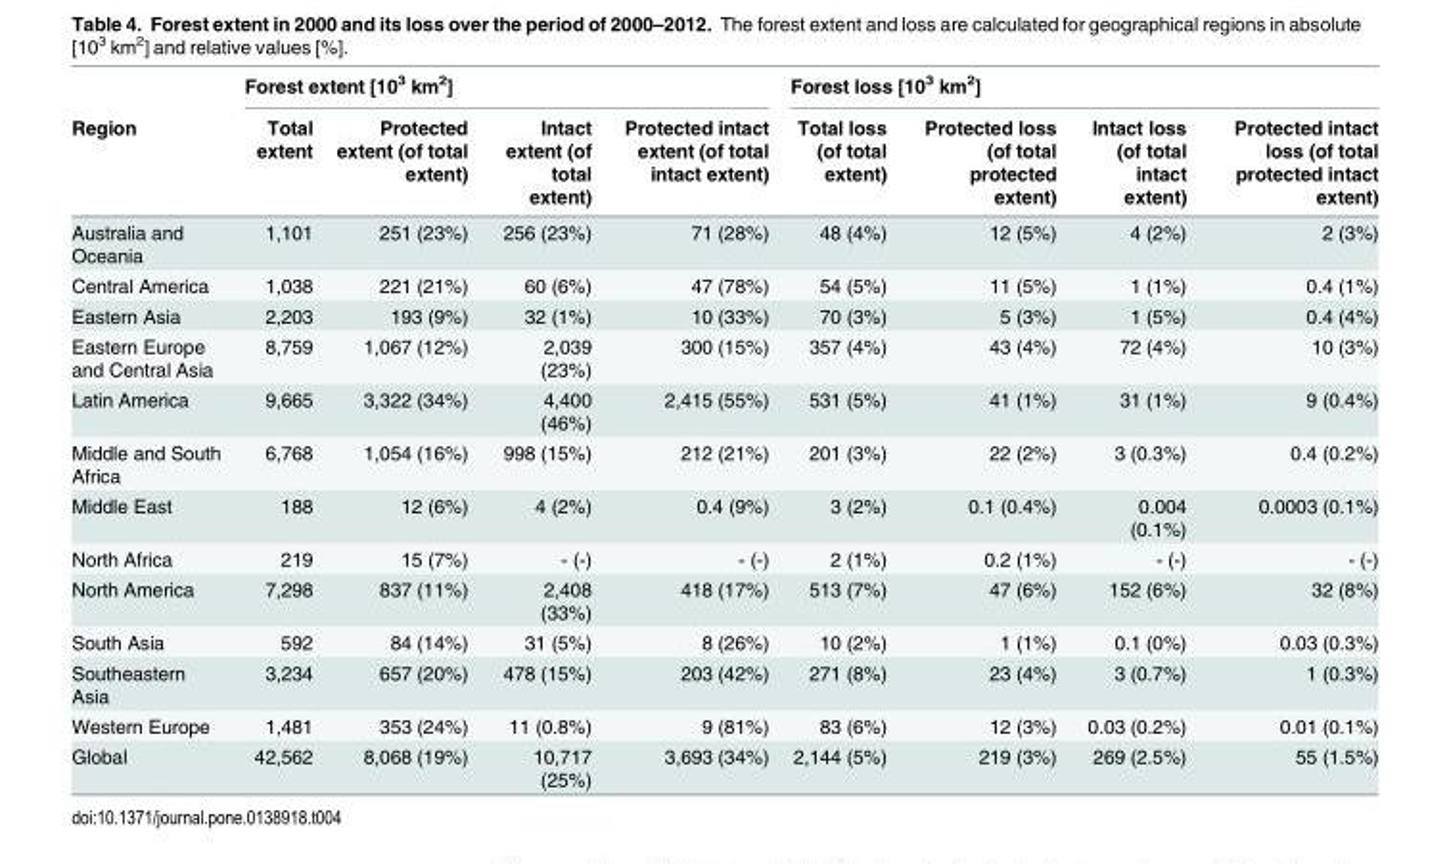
<table><thead><tr><td rowspan="2">Region</td><td colspan="4">Forest extent [10<sup>3</sup> km<sup>2</sup>]</td><td colspan="4">Forest loss [10<sup>3</sup> km<sup>2</sup>]</td></tr><tr><td>Total extent</td><td>Protected extent (of total extent)</td><td>Intact extent (of total extent)</td><td>Protected intact extent (of total intact extent)</td><td>Total loss (of total extent)</td><td>Protected loss (of total protected extent)</td><td>Intact loss (of total intact extent)</td><td>Protected intact loss (of total protected intact extent)</td></tr></thead><tbody><tr><td>Australia and Oceania</td><td>1,101</td><td>251 (23%)</td><td>256 (23%)</td><td>71 (28%)</td><td>48 (4%)</td><td>12 (5%)</td><td>4 (2%)</td><td>2 (3%)</td></tr><tr><td>Central America</td><td>1,038</td><td>221 (21%)</td><td>60 (6%)</td><td>47 (78%)</td><td>54 (5%)</td><td>11 (5%)</td><td>1 (1%)</td><td>0.4 (1%)</td></tr><tr><td>Eastern Asia</td><td>2,203</td><td>193 (9%)</td><td>32 (1%)</td><td>10 (33%)</td><td>70 (3%)</td><td>5 (3%)</td><td>1 (5%)</td><td>0.4 (4%)</td></tr><tr><td>Eastern Europe and Central Asia</td><td>8,759</td><td>1,067 (12%)</td><td>2,039 (23%)</td><td>300 (15%)</td><td>357 (4%)</td><td>43 (4%)</td><td>72 (4%)</td><td>10 (3%)</td></tr><tr><td>Latin America</td><td>9,665</td><td>3,322 (34%)</td><td>4,400 (46%)</td><td>2,415 (55%)</td><td>531 (5%)</td><td>41 (1%)</td><td>31 (1%)</td><td>9 (0.4%)</td></tr><tr><td>Middle and South Africa</td><td>6,768</td><td>1,054 (16%)</td><td>998 (15%)</td><td>212 (21%)</td><td>201 (3%)</td><td>22 (2%)</td><td>3 (0.3%)</td><td>0.4 (0.2%)</td></tr><tr><td>Middle East</td><td>188</td><td>12 (6%)</td><td>4 (2%)</td><td>0.4 (9%)</td><td>3 (2%)</td><td>0.1 (0.4%)</td><td>0.004 (0.1%)</td><td>0.0003 (0.1%)</td></tr><tr><td>North Africa</td><td>219</td><td>15 (7%)</td><td>- (-)</td><td>- (-)</td><td>2 (1%)</td><td>0.2 (1%)</td><td>- (-)</td><td>- (-)</td></tr><tr><td>North America</td><td>7,298</td><td>837 (11%)</td><td>2,408 (33%)</td><td>418 (17%)</td><td>513 (7%)</td><td>47 (6%)</td><td>152 (6%)</td><td>32 (8%)</td></tr><tr><td>South Asia</td><td>592</td><td>84 (14%)</td><td>31 (5%)</td><td>8 (26%)</td><td>10 (2%)</td><td>1 (1%)</td><td>0.1 (0%)</td><td>0.03 (0.3%)</td></tr><tr><td>Southeastern Asia</td><td>3,234</td><td>657 (20%)</td><td>478 (15%)</td><td>203 (42%)</td><td>271 (8%)</td><td>23 (4%)</td><td>3 (0.7%)</td><td>1 (0.3%)</td></tr><tr><td>Western Europe</td><td>1,481</td><td>353 (24%)</td><td>11 (0.8%)</td><td>9 (81%)</td><td>83 (6%)</td><td>12 (3%)</td><td>0.03 (0.2%)</td><td>0.01 (0.1%)</td></tr><tr><td>Global</td><td>42,562</td><td>8,068 (19%)</td><td>10,717 (25%)</td><td>3,693 (34%)</td><td>2,144 (5%)</td><td>219 (3%)</td><td>269 (2.5%)</td><td>55 (1.5%)</td></tr></tbody></table>